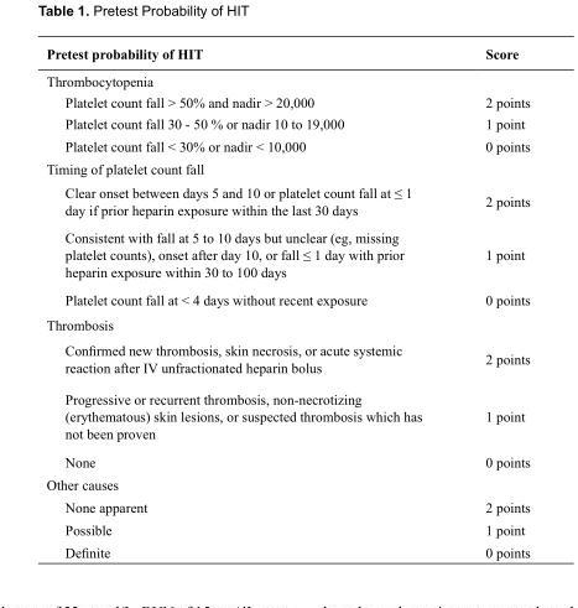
<table><thead><tr><td>Pretest probability of HIT</td><td>Score</td></tr></thead><tbody><tr><td colspan="2">Thrombocytopenia</td></tr><tr><td>Platelet count fall &gt; 50% and nadir &gt; 20,000</td><td>2 points</td></tr><tr><td>Platelet count fall 30 - 50 % or nadir 10 to 19,000</td><td>1 point</td></tr><tr><td>Platelet count fall &lt; 30% or nadir &lt; 10,000</td><td>0 points</td></tr><tr><td colspan="2">Timing of platelet count fall</td></tr><tr><td>Clear onset between days 5 and 10 or platelet count fall at ≤ 1 day if prior heparin exposure within the last 30 days</td><td>2 points</td></tr><tr><td>Consistent with fall at 5 to 10 days but unclear (eg, missing platelet counts), onset after day 10, or fall ≤ 1 day with prior heparin exposure within 30 to 100 days</td><td>1 point</td></tr><tr><td>Platelet count fall at &lt; 4 days without recent exposure</td><td>0 points</td></tr><tr><td colspan="2">Thrombosis</td></tr><tr><td>Confirmed new thrombosis, skin necrosis, or acute systemic reaction after IV unfractionated heparin bolus</td><td>2 points</td></tr><tr><td>Progressive or recurrent thrombosis, non-necrotizing (erythematous) skin lesions, or suspected thrombosis which has not been proven</td><td>1 point</td></tr><tr><td>None</td><td>0 points</td></tr><tr><td colspan="2">Other causes</td></tr><tr><td>None apparent</td><td>2 points</td></tr><tr><td>Possible</td><td>1 point</td></tr><tr><td>Definite</td><td>0 points</td></tr></tbody></table>